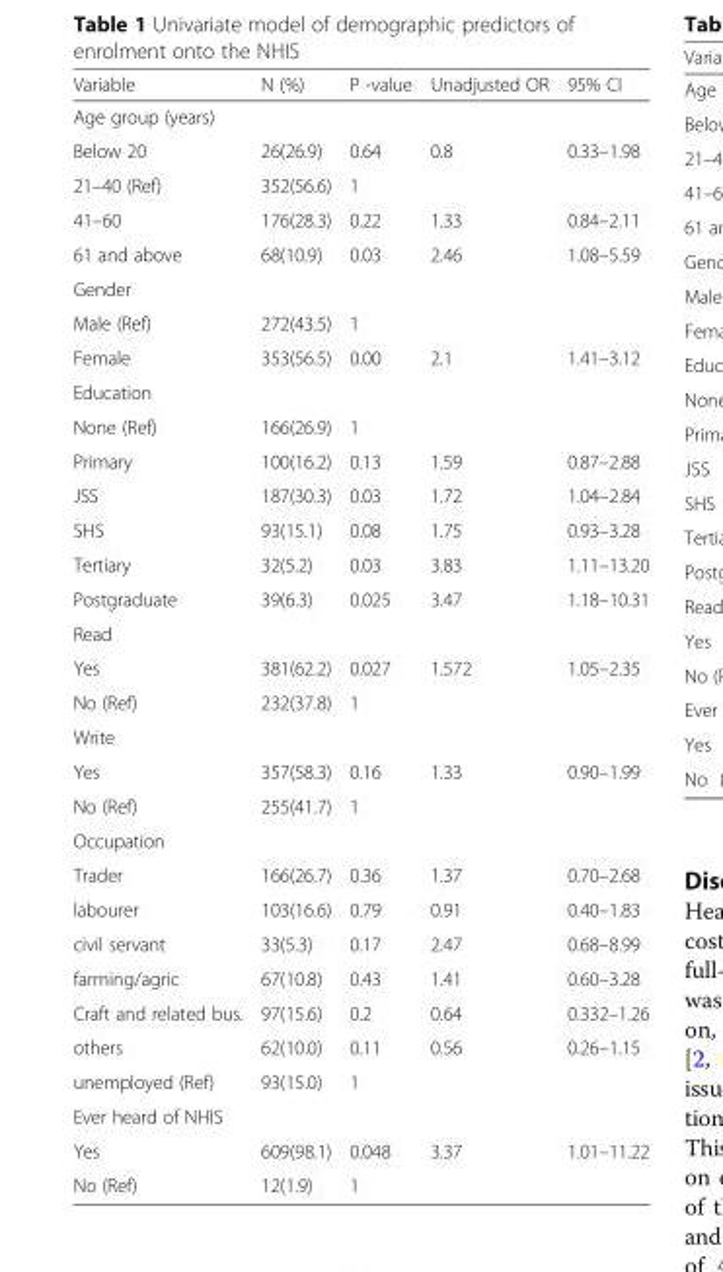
<table><thead><tr><td>Variable</td><td>N (%)</td><td>P -value</td><td>Unadjusted OR</td><td>95% CI</td></tr></thead><tbody><tr><td colspan="5">Age group (years)</td></tr><tr><td>Below 20</td><td>26(26.9)</td><td>0.64</td><td>0.8</td><td>0.33–1.98</td></tr><tr><td>21–40 (Ref)</td><td>352(56.6)</td><td>1</td><td></td><td></td></tr><tr><td>41–60</td><td>176(28.3)</td><td>0.22</td><td>1.33</td><td>0.84–2.11</td></tr><tr><td>61 and above</td><td>68(10.9)</td><td>0.03</td><td>2.46</td><td>1.08–5.59</td></tr><tr><td colspan="5">Gender</td></tr><tr><td>Male (Ref)</td><td>272(43.5)</td><td>1</td><td></td><td></td></tr><tr><td>Female</td><td>353(56.5)</td><td>0.00</td><td>2.1</td><td>1.41–3.12</td></tr><tr><td colspan="5">Education</td></tr><tr><td>None (Ref)</td><td>166(26.9)</td><td>1</td><td></td><td></td></tr><tr><td>Primary</td><td>100(16.2)</td><td>0.13</td><td>1.59</td><td>0.87–2.88</td></tr><tr><td>JSS</td><td>187(30.3)</td><td>0.03</td><td>1.72</td><td>1.04–2.84</td></tr><tr><td>SHS</td><td>93(15.1)</td><td>0.08</td><td>1.75</td><td>0.93–3.28</td></tr><tr><td>Tertiary</td><td>32(5.2)</td><td>0.03</td><td>3.83</td><td>1.11–13.20</td></tr><tr><td>Postgraduate</td><td>39(6.3)</td><td>0.025</td><td>3.47</td><td>1.18–10.31</td></tr><tr><td colspan="5">Read</td></tr><tr><td>Yes</td><td>381(62.2)</td><td>0.027</td><td>1.572</td><td>1.05–2.35</td></tr><tr><td>No (Ref)</td><td>232(37.8)</td><td>1</td><td></td><td></td></tr><tr><td colspan="5">Write</td></tr><tr><td>Yes</td><td>357(58.3)</td><td>0.16</td><td>1.33</td><td>0.90–1.99</td></tr><tr><td>No (Ref)</td><td>255(41.7)</td><td>1</td><td></td><td></td></tr><tr><td colspan="5">Occupation</td></tr><tr><td>Trader</td><td>166(26.7)</td><td>0.36</td><td>1.37</td><td>0.70–2.68</td></tr><tr><td>labourer</td><td>103(16.6)</td><td>0.79</td><td>0.91</td><td>0.40–1.83</td></tr><tr><td>civil servant</td><td>33(5.3)</td><td>0.17</td><td>2.47</td><td>0.68–8.99</td></tr><tr><td>farming/agric</td><td>67(10.8)</td><td>0.43</td><td>1.41</td><td>0.60–3.28</td></tr><tr><td>Craft and related bus.</td><td>97(15.6)</td><td>0.2</td><td>0.64</td><td>0.332–1.26</td></tr><tr><td>others</td><td>62(10.0)</td><td>0.11</td><td>0.56</td><td>0.26–1.15</td></tr><tr><td>unemployed (Ref)</td><td>93(15.0)</td><td>1</td><td></td><td></td></tr><tr><td colspan="5">Ever heard of NHIS</td></tr><tr><td>Yes</td><td>609(98.1)</td><td>0.048</td><td>3.37</td><td>1.01–11.22</td></tr><tr><td>No (Ref)</td><td>12(1.9)</td><td>1</td><td></td><td></td></tr></tbody></table>